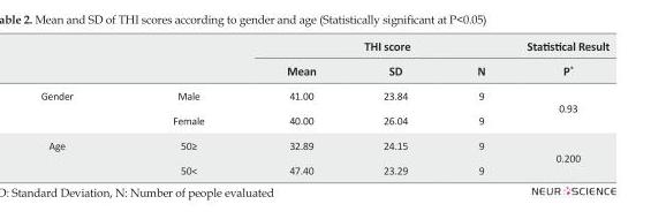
<table><thead><tr><td rowspan="2"></td><td rowspan="2"></td><td colspan="3">THI score</td><td rowspan="2">Statistical Result P*</td></tr><tr><td>Mean</td><td>SD</td><td>N</td></tr></thead><tbody><tr><td rowspan="2">Gender</td><td>Male</td><td>41.00</td><td>23.84</td><td>9</td><td rowspan="2">0.93</td></tr><tr><td>Female</td><td>40.00</td><td>26.04</td><td>9</td></tr><tr><td rowspan="2">Age</td><td>50≥</td><td>32.89</td><td>24.15</td><td>9</td><td rowspan="2">0.200</td></tr><tr><td>50&lt;</td><td>47.40</td><td>23.29</td><td>9</td></tr></tbody></table>